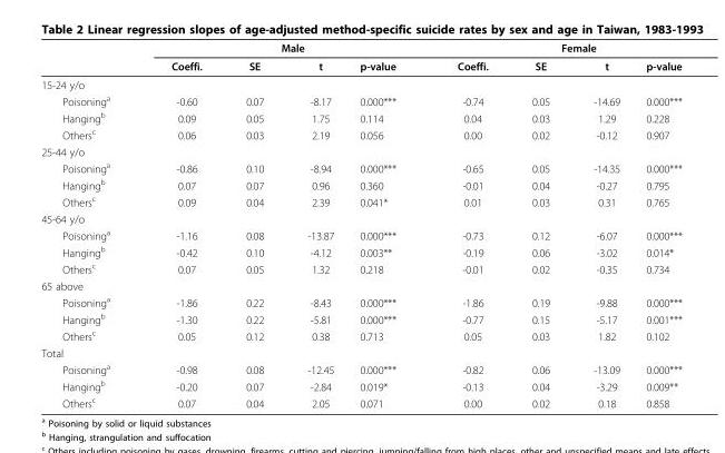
<table><thead><tr><td rowspan="2"></td><td colspan="4">Male</td><td colspan="4">Female</td></tr><tr><td>Coeffi.</td><td>SE</td><td>t</td><td>p-value</td><td>Coeffi.</td><td>SE</td><td>t</td><td>p-value</td></tr></thead><tbody><tr><td colspan="9">15-24 y/o</td></tr><tr><td>Poisoning<sup>a</sup></td><td>-0.60</td><td>0.07</td><td>-8.17</td><td>0.000***</td><td>-0.74</td><td>0.05</td><td>-14.69</td><td>0.000***</td></tr><tr><td>Hanging<sup>b</sup></td><td>0.09</td><td>0.05</td><td>1.75</td><td>0.114</td><td>0.04</td><td>0.03</td><td>1.29</td><td>0.228</td></tr><tr><td>Others<sup>c</sup></td><td>0.06</td><td>0.03</td><td>2.19</td><td>0.056</td><td>0.00</td><td>0.02</td><td>-0.12</td><td>0.907</td></tr><tr><td colspan="9">25-44 y/o</td></tr><tr><td>Poisoning<sup>a</sup></td><td>-0.86</td><td>0.10</td><td>-8.94</td><td>0.000***</td><td>-0.65</td><td>0.05</td><td>-14.35</td><td>0.000***</td></tr><tr><td>Hanging<sup>b</sup></td><td>0.07</td><td>0.07</td><td>0.96</td><td>0.360</td><td>-0.01</td><td>0.04</td><td>-0.27</td><td>0.795</td></tr><tr><td>Others<sup>c</sup></td><td>0.09</td><td>0.04</td><td>2.39</td><td>0.041*</td><td>0.01</td><td>0.03</td><td>0.31</td><td>0.765</td></tr><tr><td colspan="9">45-64 y/o</td></tr><tr><td>Poisoning<sup>a</sup></td><td>-1.16</td><td>0.08</td><td>-13.87</td><td>0.000***</td><td>-0.73</td><td>0.12</td><td>-6.07</td><td>0.000***</td></tr><tr><td>Hanging<sup>b</sup></td><td>-0.42</td><td>0.10</td><td>-4.12</td><td>0.003**</td><td>-0.19</td><td>0.06</td><td>-3.02</td><td>0.014*</td></tr><tr><td>Others<sup>c</sup></td><td>0.07</td><td>0.05</td><td>1.32</td><td>0.218</td><td>-0.01</td><td>0.02</td><td>-0.35</td><td>0.734</td></tr><tr><td colspan="9">65 above</td></tr><tr><td>Poisoning<sup>a</sup></td><td>-1.86</td><td>0.22</td><td>-8.43</td><td>0.000***</td><td>-1.86</td><td>0.19</td><td>-9.88</td><td>0.000***</td></tr><tr><td>Hanging<sup>b</sup></td><td>-1.30</td><td>0.22</td><td>-5.81</td><td>0.000***</td><td>-0.77</td><td>0.15</td><td>-5.17</td><td>0.001***</td></tr><tr><td>Others<sup>c</sup></td><td>0.05</td><td>0.12</td><td>0.38</td><td>0.713</td><td>0.05</td><td>0.03</td><td>1.82</td><td>0.102</td></tr><tr><td colspan="9">Total</td></tr><tr><td>Poisoning<sup>a</sup></td><td>-0.98</td><td>0.08</td><td>-12.45</td><td>0.000***</td><td>-0.82</td><td>0.06</td><td>-13.09</td><td>0.000***</td></tr><tr><td>Hanging<sup>b</sup></td><td>-0.20</td><td>0.07</td><td>-2.84</td><td>0.019*</td><td>-0.13</td><td>0.04</td><td>-3.29</td><td>0.009**</td></tr><tr><td>Others<sup>c</sup></td><td>0.07</td><td>0.04</td><td>2.05</td><td>0.071</td><td>0.00</td><td>0.02</td><td>0.18</td><td>0.858</td></tr></tbody></table>